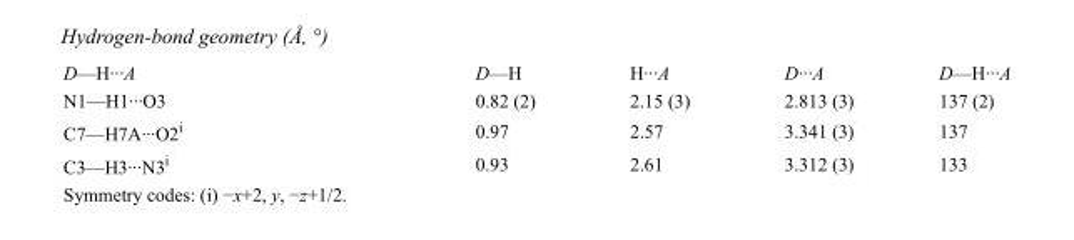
<table><tbody><tr><td>D—H···A</td><td>D—H</td><td>H···A</td><td>D···A</td><td>D—H···A</td></tr><tr><td>N1—H1···O3</td><td>0.82 (2)</td><td>2.15 (3)</td><td>2.813 (3)</td><td>137 (2)</td></tr><tr><td>C7—H7A···O2<sup>i</sup></td><td>0.97</td><td>2.57</td><td>3.341 (3)</td><td>137</td></tr><tr><td>C3—H3···N3<sup>i</sup></td><td>0.93</td><td>2.61</td><td>3.312 (3)</td><td>133</td></tr></tbody></table>